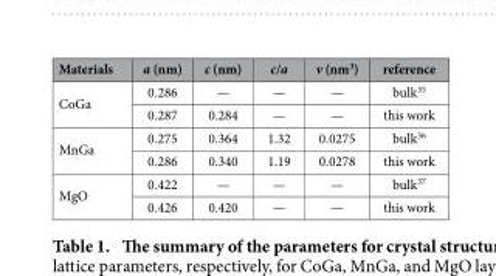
<table><thead><tr><td>Materials</td><td>a (nm)</td><td>c (nm)</td><td>c/a</td><td>v (nm<sup>3</sup>)</td><td>reference</td></tr></thead><tbody><tr><td rowspan="2">CoGa</td><td>0.286</td><td>—</td><td>—</td><td>—</td><td>bulk<sup>35</sup></td></tr><tr><td>0.287</td><td>0.284</td><td>—</td><td>—</td><td>this work</td></tr><tr><td rowspan="2">MnGa</td><td>0.275</td><td>0.364</td><td>1.32</td><td>0.0275</td><td>bulk<sup>36</sup></td></tr><tr><td>0.286</td><td>0.340</td><td>1.19</td><td>0.0278</td><td>this work</td></tr><tr><td rowspan="2">MgO</td><td>0.422</td><td>—</td><td>—</td><td>—</td><td>bulk<sup>37</sup></td></tr><tr><td>0.426</td><td>0.420</td><td>—</td><td>—</td><td>this work</td></tr></tbody></table>